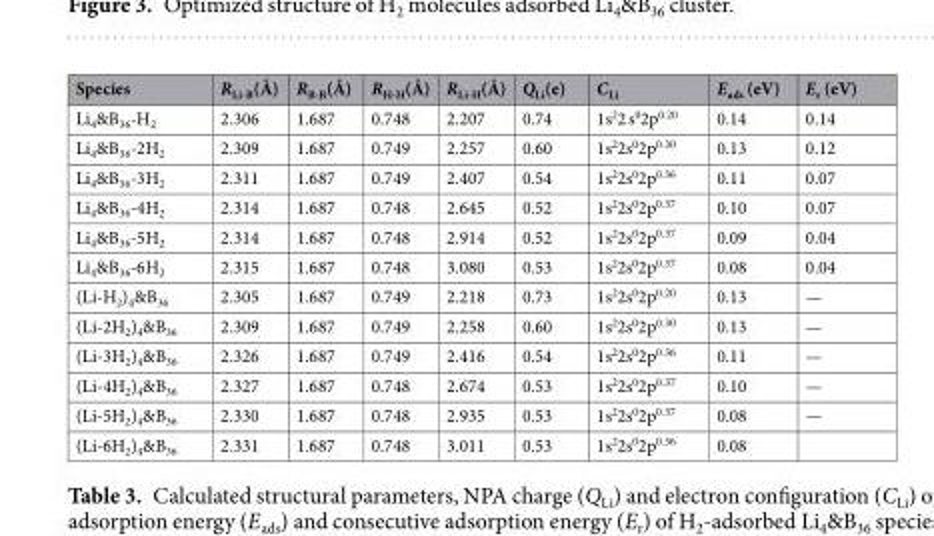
<table><thead><tr><td>Species</td><td>R<sub>Li-B</sub>(Å)</td><td>R<sub>B-B</sub>(Å)</td><td>R<sub>H-H</sub>(Å)</td><td>R<sub>Li-H</sub>(Å)</td><td>Q<sub>Li</sub>(e)</td><td>C<sub>Li</sub></td><td>E<sub>ads</sub> (eV)</td><td>E<sub>r</sub> (eV)</td></tr></thead><tbody><tr><td>Li<sub>4</sub>&amp;B<sub>36</sub>-H<sub>2</sub></td><td>2.306</td><td>1.687</td><td>0.748</td><td>2.207</td><td>0.74</td><td>1s<sup>2</sup>2 s<sup>0</sup>2p<sup>0.2</sup>0</td><td>0.14</td><td>0.14</td></tr><tr><td>Li<sub>4</sub>&amp;B<sub>36</sub>-2H<sub>2</sub></td><td>2.309</td><td>1.687</td><td>0.749</td><td>2.257</td><td>0.60</td><td>1s<sup>2</sup>2s<sup>0</sup>2p<sup>0.3</sup>0</td><td>0.13</td><td>0.12</td></tr><tr><td>Li<sub>4</sub>&amp;B<sub>36</sub>-3H<sub>2</sub></td><td>2.311</td><td>1.687</td><td>0.749</td><td>2.407</td><td>0.54</td><td>1s<sup>2</sup>2s<sup>0</sup>2p<sup>0.36</sup></td><td>0.11</td><td>0.07</td></tr><tr><td>Li<sub>4</sub>&amp;B<sub>36</sub>-4H<sub>2</sub></td><td>2.314</td><td>1.687</td><td>0.748</td><td>2.645</td><td>0.52</td><td>1s<sup>2</sup>2s<sup>0</sup>2p<sup>0.37</sup></td><td>0.10</td><td>0.07</td></tr><tr><td>Li<sub>4</sub>&amp;B<sub>36</sub>-5H<sub>2</sub></td><td>2.314</td><td>1.687</td><td>0.748</td><td>2.914</td><td>0.52</td><td>1s<sup>2</sup>2s02p<sup>0.37</sup></td><td>0.09</td><td>0.04</td></tr><tr><td>Li<sub>4</sub>&amp;B<sub>36</sub>-6H<sub>2</sub></td><td>2.315</td><td>1.687</td><td>0.748</td><td>3.080</td><td>0.53</td><td>1s<sup>2</sup>2s<sup>0</sup>2p<sup>0.37</sup></td><td>0.08</td><td>0.04</td></tr><tr><td>(Li-H<sub>2</sub>)<sub>4</sub>&amp;B<sub>36</sub></td><td>2.305</td><td>1.687</td><td>0.749</td><td>2.218</td><td>0.73</td><td>1s<sup>2</sup>2s<sup>0</sup>2p<sup>0.20</sup></td><td>0.13</td><td>—</td></tr><tr><td>(Li-2H<sub>2</sub>)<sub>4</sub>&amp;B<sub>36</sub></td><td>2.309</td><td>1.687</td><td>0.749</td><td>2.258</td><td>0.60</td><td>1s<sup>2</sup>2s<sup>0</sup>2p<sup>0.30</sup></td><td>0.13</td><td>—</td></tr><tr><td>(Li-3H<sub>2</sub>)<sub>4</sub>&amp;B<sub>36</sub></td><td>2.326</td><td>1.687</td><td>0.749</td><td>2.416</td><td>0.54</td><td>1s<sup>2</sup>2s<sup>0</sup>2p<sup>0.36</sup></td><td>0.11</td><td>—</td></tr><tr><td>(Li-4H<sub>2</sub>)<sub>4</sub>&amp;B<sub>36</sub></td><td>2.327</td><td>1.687</td><td>0.748</td><td>2.674</td><td>0.53</td><td>1s<sup>2</sup>2s<sup>0</sup>2p<sup>0.37</sup></td><td>0.10</td><td>—</td></tr><tr><td>(Li-5H<sub>2</sub>)<sub>4</sub>&amp;B<sub>36</sub></td><td>2.330</td><td>1.687</td><td>0.748</td><td>2.935</td><td>0.53</td><td>1s<sup>2</sup>2s<sup>0</sup>2p<sup>0.37</sup></td><td>0.08</td><td>—</td></tr><tr><td>(Li-6H<sub>2</sub>)<sub>4</sub>&amp;B<sub>36</sub></td><td>2.331</td><td>1.687</td><td>0.748</td><td>3.011</td><td>0.53</td><td>1s<sup>2</sup>2s<sup>0</sup>2p<sup>0.36</sup></td><td>0.08</td><td></td></tr></tbody></table>